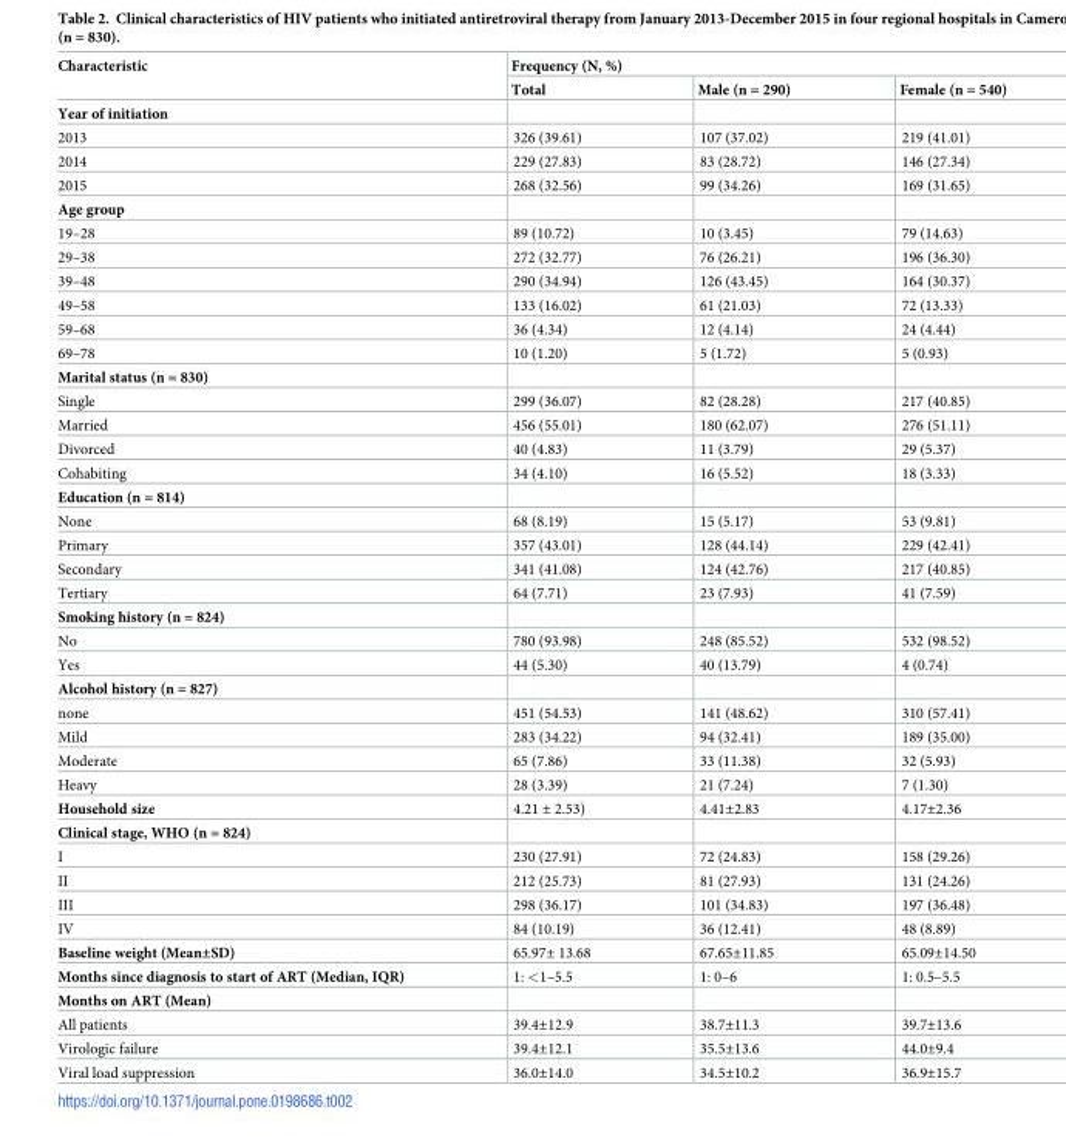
<table><thead><tr><td rowspan="2">Characteristic</td><td colspan="3">Frequency (N, %)</td></tr><tr><td>Total</td><td>Male (n = 290)</td><td>Female (n = 540)</td></tr></thead><tbody><tr><td colspan="4">Year of initiation</td></tr><tr><td>2013</td><td>326 (39.61)</td><td>107 (37.02)</td><td>219 (41.01)</td></tr><tr><td>2014</td><td>229 (27.83)</td><td>83 (28.72)</td><td>146 (27.34)</td></tr><tr><td>2015</td><td>268 (32.56)</td><td>99 (34.26)</td><td>169 (31.65)</td></tr><tr><td colspan="4">Age group</td></tr><tr><td>19–28</td><td>89 (10.72)</td><td>10 (3.45)</td><td>79 (14.63)</td></tr><tr><td>29–38</td><td>272 (32.77)</td><td>76 (26.21)</td><td>196 (36.30)</td></tr><tr><td>39–48</td><td>290 (34.94)</td><td>126 (43.45)</td><td>164 (30.37)</td></tr><tr><td>49–58</td><td>133 (16.02)</td><td>61 (21.03)</td><td>72 (13.33)</td></tr><tr><td>59–68</td><td>36 (4.34)</td><td>12 (4.14)</td><td>24 (4.44)</td></tr><tr><td>69–78</td><td>10 (1.20)</td><td>5 (1.72)</td><td>5 (0.93)</td></tr><tr><td colspan="4">Marital status (n = 830)</td></tr><tr><td>Single</td><td>299 (36.07)</td><td>82 (28.28)</td><td>217 (40.85)</td></tr><tr><td>Married</td><td>456 (55.01)</td><td>180 (62.07)</td><td>276 (51.11)</td></tr><tr><td>Divorced</td><td>40 (4.83)</td><td>11 (3.79)</td><td>29 (5.37)</td></tr><tr><td>Cohabiting</td><td>34 (4.10)</td><td>16 (5.52)</td><td>18 (3.33)</td></tr><tr><td colspan="4">Education (n = 814)</td></tr><tr><td>None</td><td>68 (8.19)</td><td>15 (5.17)</td><td>53 (9.81)</td></tr><tr><td>Primary</td><td>357 (43.01)</td><td>128 (44.14)</td><td>229 (42.41)</td></tr><tr><td>Secondary</td><td>341 (41.08)</td><td>124 (42.76)</td><td>217 (40.85)</td></tr><tr><td>Tertiary</td><td>64 (7.71)</td><td>23 (7.93)</td><td>41 (7.59)</td></tr><tr><td colspan="4">Smoking history (n = 824)</td></tr><tr><td>No</td><td>780 (93.98)</td><td>248 (85.52)</td><td>532 (98.52)</td></tr><tr><td>Yes</td><td>44 (5.30)</td><td>40 (13.79)</td><td>4 (0.74)</td></tr><tr><td colspan="4">Alcohol history (n = 827)</td></tr><tr><td>none</td><td>451 (54.53)</td><td>141 (48.62)</td><td>310 (57.41)</td></tr><tr><td>Mild</td><td>283 (34.22)</td><td>94 (32.41)</td><td>189 (35.00)</td></tr><tr><td>Moderate</td><td>65 (7.86)</td><td>33 (11.38)</td><td>32 (5.93)</td></tr><tr><td>Heavy</td><td>28 (3.39)</td><td>21 (7.24)</td><td>7 (1.30)</td></tr><tr><td>Household size</td><td>4.21 ± 2.53)</td><td>4.41±2.83</td><td>4.17±2.36</td></tr><tr><td colspan="4">Clinical stage, WHO (n = 824)</td></tr><tr><td>I</td><td>230 (27.91)</td><td>72 (24.83)</td><td>158 (29.26)</td></tr><tr><td>II</td><td>212 (25.73)</td><td>81 (27.93)</td><td>131 (24.26)</td></tr><tr><td>III</td><td>298 (36.17)</td><td>101 (34.83)</td><td>197 (36.48)</td></tr><tr><td>IV</td><td>84 (10.19)</td><td>36 (12.41)</td><td>48 (8.89)</td></tr><tr><td>Baseline weight (Mean±SD)</td><td>65.97± 13.68</td><td>67.65±11.85</td><td>65.09±14.50</td></tr><tr><td>Months since diagnosis to start of ART (Median, IQR)</td><td>1: &lt;1–5.5</td><td>1: 0–6</td><td>1: 0.5–5.5</td></tr><tr><td colspan="4">Months on ART (Mean)</td></tr><tr><td>All patients</td><td>39.4±12.9</td><td>38.7±11.3</td><td>39.7±13.6</td></tr><tr><td>Virologic failure</td><td>39.4±12.1</td><td>35.5±13.6</td><td>44.0±9.4</td></tr><tr><td>Viral load suppression</td><td>36.0±14.0</td><td>34.5±10.2</td><td>36.9±15.7</td></tr></tbody></table>